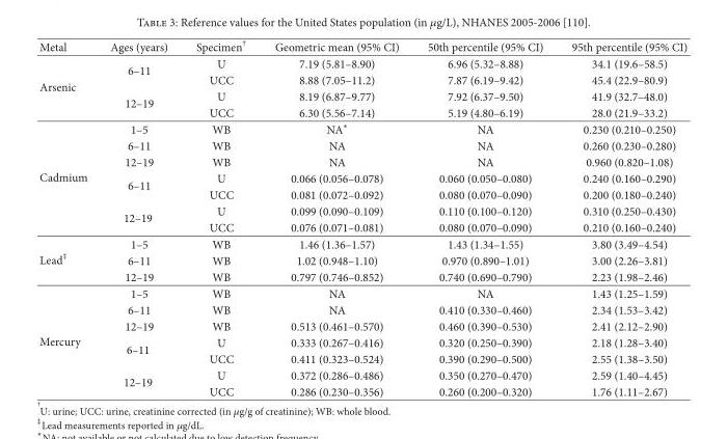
<table><thead><tr><td>Metal</td><td>Ages (years)</td><td>Specimen<sup>†</sup></td><td>Geometric mean (95% CI)</td><td>50th percentile (95% CI)</td><td>95th percentile (95% CI)</td></tr></thead><tbody><tr><td rowspan="4">Arsenic</td><td rowspan="2">6–11</td><td>U</td><td>7.19 (5.81–8.90)</td><td>6.96 (5.32–8.88)</td><td>34.1 (19.6–58.5)</td></tr><tr><td>UCC</td><td>8.88 (7.05–11.2)</td><td>7.87 (6.19–9.42)</td><td>45.4 (22.9–80.9)</td></tr><tr><td rowspan="2">12–19</td><td>U</td><td>8.19 (6.87–9.77)</td><td>7.92 (6.37–9.50)</td><td>41.9 (32.7–48.0)</td></tr><tr><td>UCC</td><td>6.30 (5.56–7.14)</td><td>5.19 (4.80–6.19)</td><td>28.0 (21.9–33.2)</td></tr><tr><td rowspan="7">Cadmium</td><td>1–5</td><td>WB</td><td>NA∗</td><td>NA</td><td>0.230 (0.210–0.250)</td></tr><tr><td>6–11</td><td>WB</td><td>NA</td><td>NA</td><td>0.260 (0.230–0.280)</td></tr><tr><td>12–19</td><td>WB</td><td>NA</td><td>NA</td><td>0.960 (0.820–1.08)</td></tr><tr><td rowspan="2">6–11</td><td>U</td><td>0.066 (0.056–0.078)</td><td>0.060 (0.050–0.080)</td><td>0.240 (0.160–0.290)</td></tr><tr><td>UCC</td><td>0.081 (0.072–0.092)</td><td>0.080 (0.070–0.090)</td><td>0.200 (0.180–0.240)</td></tr><tr><td rowspan="2">12–19</td><td>U</td><td>0.099 (0.090–0.109)</td><td>0.110 (0.100–0.120)</td><td>0.310 (0.250–0.430)</td></tr><tr><td>UCC</td><td>0.076 (0.071–0.081)</td><td>0.080 (0.070–0.090)</td><td>0.210 (0.160–0.240)</td></tr><tr><td rowspan="3">Lead<sup>‡</sup></td><td>1–5</td><td>WB</td><td>1.46 (1.36–1.57)</td><td>1.43 (1.34–1.55)</td><td>3.80 (3.49–4.54)</td></tr><tr><td>6–11</td><td>WB</td><td>1.02 (0.948–1.10)</td><td>0.970 (0.890–1.01)</td><td>3.00 (2.26–3.81)</td></tr><tr><td>12–19</td><td>WB</td><td>0.797 (0.746–0.852)</td><td>0.740 (0.690–0.790)</td><td>2.23 (1.98–2.46)</td></tr><tr><td rowspan="7">Mercury</td><td>1–5</td><td>WB</td><td>NA</td><td>NA</td><td>1.43 (1.25–1.59)</td></tr><tr><td>6–11</td><td>WB</td><td>NA</td><td>0.410 (0.330–0.460)</td><td>2.34 (1.53–3.42)</td></tr><tr><td>12–19</td><td>WB</td><td>0.513 (0.461–0.570)</td><td>0.460 (0.390–0.530)</td><td>2.41 (2.12–2.90)</td></tr><tr><td rowspan="2">6–11</td><td>U</td><td>0.333 (0.267–0.416)</td><td>0.320 (0.250–0.390)</td><td>2.18 (1.28–3.40)</td></tr><tr><td>UCC</td><td>0.411 (0.323–0.524)</td><td>0.390 (0.290–0.500)</td><td>2.55 (1.38–3.50)</td></tr><tr><td rowspan="2">12–19</td><td>U</td><td>0.372 (0.286–0.486)</td><td>0.350 (0.270–0.470)</td><td>2.59 (1.40–4.45)</td></tr><tr><td>UCC</td><td>0.286 (0.230–0.356)</td><td>0.260 (0.200–0.320)</td><td>1.76 (1.11–2.67)</td></tr></tbody></table>